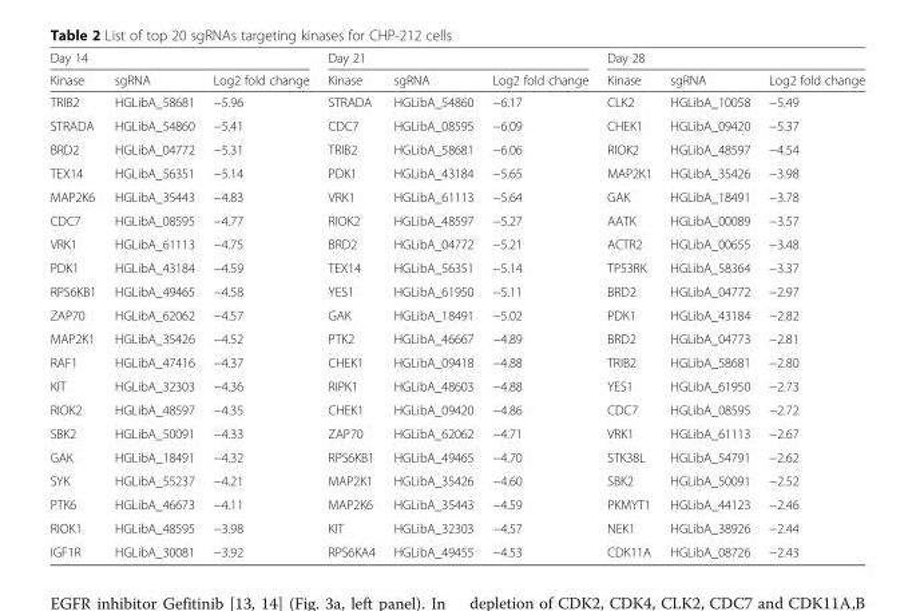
<table><thead><tr><td colspan="3">Day 14</td><td colspan="3">Day 21</td><td colspan="3">Day 28</td></tr><tr><td>Kinase</td><td>sgRNA</td><td>Log2 fold change</td><td>Kinase</td><td>sgRNA</td><td>Log2 fold change</td><td>Kinase</td><td>sgRNA</td><td>Log2 fold change</td></tr></thead><tbody><tr><td>TRIB2</td><td>HGLibA_58681</td><td>−5.96</td><td>STRADA</td><td>HGLibA_54860</td><td>−6.17</td><td>CLK2</td><td>HGLibA_10058</td><td>−5.49</td></tr><tr><td>STRADA</td><td>HGLibA_54860</td><td>−5.41</td><td>CDC7</td><td>HGLibA_08595</td><td>−6.09</td><td>CHEK1</td><td>HGLibA_09420</td><td>−5.37</td></tr><tr><td>BRD2</td><td>HGLibA_04772</td><td>−5.31</td><td>TRIB2</td><td>HGLibA_58681</td><td>−6.06</td><td>RIOK2</td><td>HGLibA_48597</td><td>−4.54</td></tr><tr><td>TEX14</td><td>HGLibA_56351</td><td>−5.14</td><td>PDK1</td><td>HGLibA_43184</td><td>−5.65</td><td>MAP2K1</td><td>HGLibA_35426</td><td>−3.98</td></tr><tr><td>MAP2K6</td><td>HGLibA_35443</td><td>−4.83</td><td>VRK1</td><td>HGLibA_61113</td><td>−5.64</td><td>GAK</td><td>HGLibA_18491</td><td>−3.78</td></tr><tr><td>CDC7</td><td>HGLibA_08595</td><td>−4.77</td><td>RIOK2</td><td>HGLibA_48597</td><td>−5.27</td><td>AATK</td><td>HGLibA_00089</td><td>−3.57</td></tr><tr><td>VRK1</td><td>HGLibA_61113</td><td>−4.75</td><td>BRD2</td><td>HGLibA_04772</td><td>−5.21</td><td>ACTR2</td><td>HGLibA_00655</td><td>−3.48</td></tr><tr><td>PDK1</td><td>HGLibA_43184</td><td>−4.59</td><td>TEX14</td><td>HGLibA_56351</td><td>−5.14</td><td>TP53RK</td><td>HGLibA_58364</td><td>−3.37</td></tr><tr><td>RPS6KB1</td><td>HGLibA_49465</td><td>−4.58</td><td>YES1</td><td>HGLibA_61950</td><td>−5.11</td><td>BRD2</td><td>HGLibA_04772</td><td>−2.97</td></tr><tr><td>ZAP70</td><td>HGLibA_62062</td><td>−4.57</td><td>GAK</td><td>HGLibA_18491</td><td>−5.02</td><td>PDK1</td><td>HGLibA_43184</td><td>−2.82</td></tr><tr><td>MAP2K1</td><td>HGLibA_35426</td><td>−4.52</td><td>PTK2</td><td>HGLibA_46667</td><td>−4.89</td><td>BRD2</td><td>HGLibA_04773</td><td>−2.81</td></tr><tr><td>RAF1</td><td>HGLibA_47416</td><td>−4.37</td><td>CHEK1</td><td>HGLibA_09418</td><td>−4.88</td><td>TRIB2</td><td>HGLibA_58681</td><td>−2.80</td></tr><tr><td>KIT</td><td>HGLibA_32303</td><td>−4.36</td><td>RIPK1</td><td>HGLibA_48603</td><td>−4.88</td><td>YES1</td><td>HGLibA_61950</td><td>−2.73</td></tr><tr><td>RIOK2</td><td>HGLibA_48597</td><td>−4.35</td><td>CHEK1</td><td>HGLibA_09420</td><td>−4.86</td><td>CDC7</td><td>HGLibA_08595</td><td>−2.72</td></tr><tr><td>SBK2</td><td>HGLibA_50091</td><td>−4.33</td><td>ZAP70</td><td>HGLibA_62062</td><td>−4.71</td><td>VRK1</td><td>HGLibA_61113</td><td>−2.67</td></tr><tr><td>GAK</td><td>HGLibA_18491</td><td>−4.32</td><td>RPS6KB1</td><td>HGLibA_49465</td><td>−4.70</td><td>STK38L</td><td>HGLibA_54791</td><td>−2.62</td></tr><tr><td>SYK</td><td>HGLibA_55237</td><td>−4.21</td><td>MAP2K1</td><td>HGLibA_35426</td><td>−4.60</td><td>SBK2</td><td>HGLibA_50091</td><td>−2.52</td></tr><tr><td>PTK6</td><td>HGLibA_46673</td><td>−4.11</td><td>MAP2K6</td><td>HGLibA_35443</td><td>−4.59</td><td>PKMYT1</td><td>HGLibA_44123</td><td>−2.46</td></tr><tr><td>RIOK1</td><td>HGLibA_48595</td><td>−3.98</td><td>KIT</td><td>HGLibA_32303</td><td>−4.57</td><td>NEK1</td><td>HGLibA_38926</td><td>−2.44</td></tr><tr><td>IGF1R</td><td>HGLibA_30081</td><td>−3.92</td><td>RPS6KA4</td><td>HGLibA_49455</td><td>−4.53</td><td>CDK11A</td><td>HGLibA_08726</td><td>−2.43</td></tr></tbody></table>